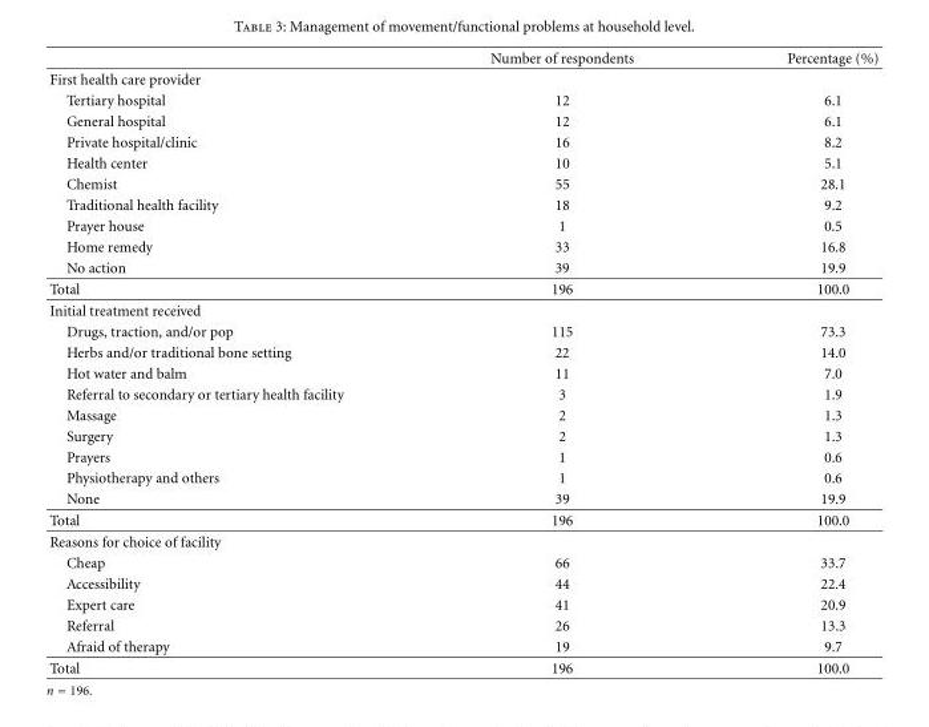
<table><thead><tr><td></td><td>Number of respondents</td><td>Percentage (%)</td></tr></thead><tbody><tr><td colspan="3">First health care provider</td></tr><tr><td>Tertiary hospital</td><td>12</td><td>6.1</td></tr><tr><td>General hospital</td><td>12</td><td>6.1</td></tr><tr><td>Private hospital/clinic</td><td>16</td><td>8.2</td></tr><tr><td>Health center</td><td>10</td><td>5.1</td></tr><tr><td>Chemist</td><td>55</td><td>28.1</td></tr><tr><td>Traditional health facility</td><td>18</td><td>9.2</td></tr><tr><td>Prayer house</td><td>1</td><td>0.5</td></tr><tr><td>Home remedy</td><td>33</td><td>16.8</td></tr><tr><td>No action</td><td>39</td><td>19.9</td></tr><tr><td>Total</td><td>196</td><td>100.0</td></tr><tr><td colspan="3">Initial treatment received</td></tr><tr><td>Drugs, traction, and/or pop</td><td>115</td><td>73.3</td></tr><tr><td>Herbs and/or traditional bone setting</td><td>22</td><td>14.0</td></tr><tr><td>Hot water and balm</td><td>11</td><td>7.0</td></tr><tr><td>Referral to secondary or tertiary health facility</td><td>3</td><td>1.9</td></tr><tr><td>Massage</td><td>2</td><td>1.3</td></tr><tr><td>Surgery</td><td>2</td><td>1.3</td></tr><tr><td>Prayers</td><td>1</td><td>0.6</td></tr><tr><td>Physiotherapy and others</td><td>1</td><td>0.6</td></tr><tr><td>None</td><td>39</td><td>19.9</td></tr><tr><td>Total</td><td>196</td><td>100.0</td></tr><tr><td colspan="3">Reasons for choice of facility</td></tr><tr><td>Cheap</td><td>66</td><td>33.7</td></tr><tr><td>Accessibility</td><td>44</td><td>22.4</td></tr><tr><td>Expert care</td><td>41</td><td>20.9</td></tr><tr><td>Referral</td><td>26</td><td>13.3</td></tr><tr><td>Afraid of therapy</td><td>19</td><td>9.7</td></tr><tr><td>Total</td><td>196</td><td>100.0</td></tr></tbody></table>